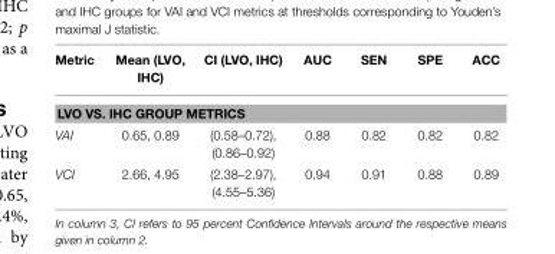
<table><thead><tr><td>Metric</td><td>Mean (LVO, IHC)</td><td>CI (LVO, IHC)</td><td>AUC</td><td>SEN</td><td>SPE</td><td>ACC</td></tr></thead><tbody><tr><td colspan="7">LVO VS. IHC GROUP METRICS</td></tr><tr><td>VAI</td><td>0.65, 0.89</td><td>(0.58–0.72), (0.86–0.92)</td><td>0.88</td><td>0.82</td><td>0.82</td><td>0.82</td></tr><tr><td>VCI</td><td>2.66, 4.95</td><td>(2.38–2.97), (4.55–5.36)</td><td>0.94</td><td>0.91</td><td>0.88</td><td>0.89</td></tr></tbody></table>